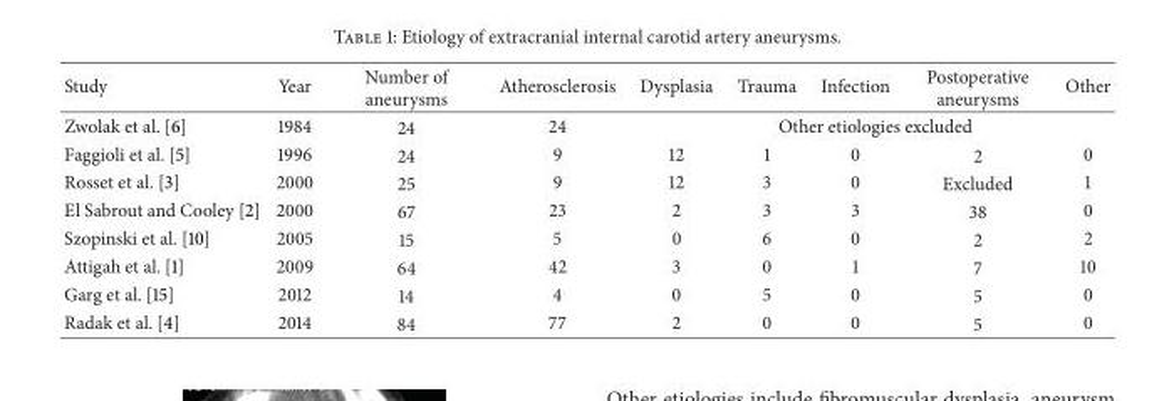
<table><thead><tr><td>Study</td><td>Year</td><td>Number of aneurysms</td><td>Atherosclerosis</td><td>Dysplasia</td><td>Trauma</td><td>Infection</td><td>Postoperative aneurysms</td><td>Other</td></tr></thead><tbody><tr><td>Zwolak et al. [6]</td><td>1984</td><td>24</td><td>24</td><td colspan="5">Other etiologies excluded</td></tr><tr><td>Faggioli et al. [5]</td><td>1996</td><td>24</td><td>9</td><td>12</td><td>1</td><td>0</td><td>2</td><td>0</td></tr><tr><td>Rosset et al. [3]</td><td>2000</td><td>25</td><td>9</td><td>12</td><td>3</td><td>0</td><td>Excluded</td><td>1</td></tr><tr><td>El Sabrout and Cooley [2]</td><td>2000</td><td>67</td><td>23</td><td>2</td><td>3</td><td>3</td><td>38</td><td>0</td></tr><tr><td>Szopinski et al. [10]</td><td>2005</td><td>15</td><td>5</td><td>0</td><td>6</td><td>0</td><td>2</td><td>2</td></tr><tr><td>Attigah et al. [1]</td><td>2009</td><td>64</td><td>42</td><td>3</td><td>0</td><td>1</td><td>7</td><td>10</td></tr><tr><td>Garg et al. [15]</td><td>2012</td><td>14</td><td>4</td><td>0</td><td>5</td><td>0</td><td>5</td><td>0</td></tr><tr><td>Radak et al. [4]</td><td>2014</td><td>84</td><td>77</td><td>2</td><td>0</td><td>0</td><td>5</td><td>0</td></tr></tbody></table>